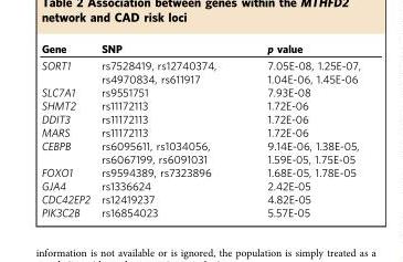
<table><thead><tr><td>Gene</td><td>SNP</td><td>p value</td></tr></thead><tbody><tr><td>SORT1</td><td>rs7528419, rs12740374, rs4970834, rs611917</td><td>7.05E-08, 1.25E-07, 1.04E-06, 1.45E-06</td></tr><tr><td>SLC7A1</td><td>rs9551751</td><td>7.93E-08</td></tr><tr><td>SHMT2</td><td>rs11172113</td><td>1.72E-06</td></tr><tr><td>DDIT3</td><td>rs11172113</td><td>1.72E-06</td></tr><tr><td>MARS</td><td>rs11172113</td><td>1.72E-06</td></tr><tr><td>CEBPB</td><td>rs6095611, rs1034056, rs6067199, rs6091031</td><td>9.14E-06, 1.38E-05, 1.59E-05, 1.75E-05</td></tr><tr><td>FOXO1</td><td>rs9594389, rs7323896</td><td>1.68E-05, 1.78E-05</td></tr><tr><td>GJA4</td><td>rs1336624</td><td>2.42E-05</td></tr><tr><td>CDC42EP2</td><td>rs12419237</td><td>4.82E-05</td></tr><tr><td>PIK3C2B</td><td>rs16854023</td><td>5.57E-05</td></tr></tbody></table>